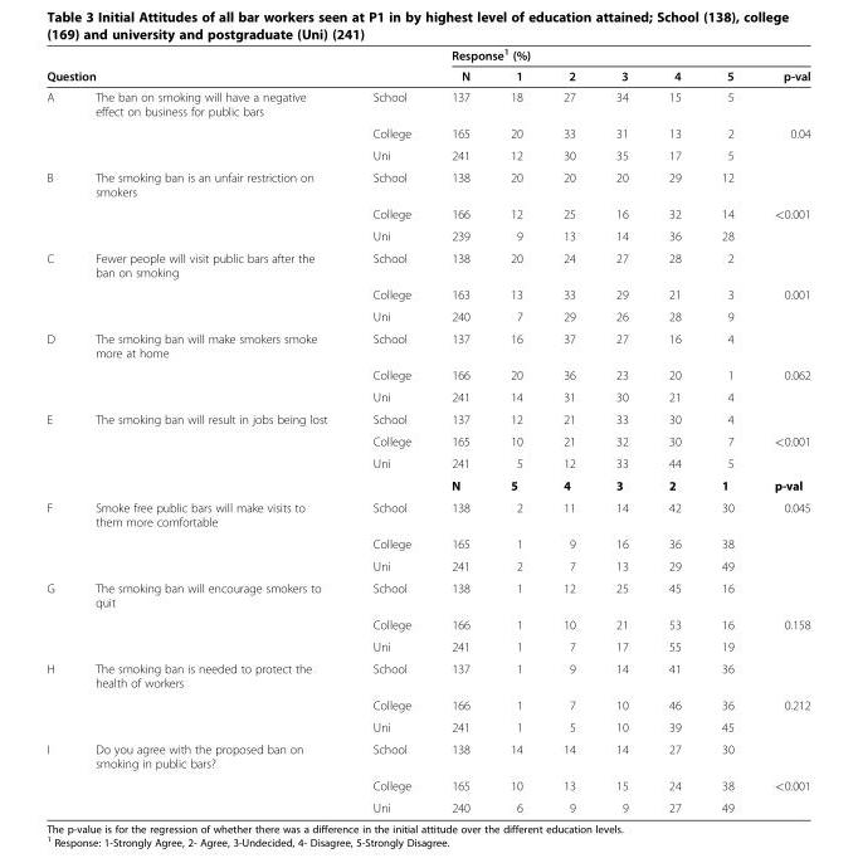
<table><thead><tr><td></td><td></td><td rowspan="2"></td><td colspan="6">Response<sup>1</sup> (%)</td><td rowspan="2">p-val</td></tr><tr><td colspan="2">Question</td><td>N</td><td>1</td><td>2</td><td>3</td><td>4</td><td>5</td></tr></thead><tbody><tr><td rowspan="3">A</td><td>The ban on smoking will have a negative effect on business for public bars</td><td>School</td><td>137</td><td>18</td><td>27</td><td>34</td><td>15</td><td>5</td><td></td></tr><tr><td></td><td>College</td><td>165</td><td>20</td><td>33</td><td>31</td><td>13</td><td>2</td><td>0.04</td></tr><tr><td></td><td>Uni</td><td>241</td><td>12</td><td>30</td><td>35</td><td>17</td><td>5</td><td></td></tr><tr><td rowspan="3">B</td><td>The smoking ban is an unfair restriction on smokers</td><td>School</td><td>138</td><td>20</td><td>20</td><td>20</td><td>29</td><td>12</td><td></td></tr><tr><td></td><td>College</td><td>166</td><td>12</td><td>25</td><td>16</td><td>32</td><td>14</td><td>&lt;0.001</td></tr><tr><td></td><td>Uni</td><td>239</td><td>9</td><td>13</td><td>14</td><td>36</td><td>28</td><td></td></tr><tr><td rowspan="3">C</td><td>Fewer people will visit public bars after the ban on smoking</td><td>School</td><td>138</td><td>20</td><td>24</td><td>27</td><td>28</td><td>2</td><td></td></tr><tr><td></td><td>College</td><td>163</td><td>13</td><td>33</td><td>29</td><td>21</td><td>3</td><td>0.001</td></tr><tr><td></td><td>Uni</td><td>240</td><td>7</td><td>29</td><td>26</td><td>28</td><td>9</td><td></td></tr><tr><td rowspan="3">D</td><td>The smoking ban will make smokers smoke more at home</td><td>School</td><td>137</td><td>16</td><td>37</td><td>27</td><td>16</td><td>4</td><td></td></tr><tr><td></td><td>College</td><td>166</td><td>20</td><td>36</td><td>23</td><td>20</td><td>1</td><td>0.062</td></tr><tr><td></td><td>Uni</td><td>241</td><td>14</td><td>31</td><td>30</td><td>21</td><td>4</td><td></td></tr><tr><td rowspan="4">E</td><td>The smoking ban will result in jobs being lost</td><td>School</td><td>137</td><td>12</td><td>21</td><td>33</td><td>30</td><td>4</td><td></td></tr><tr><td></td><td>College</td><td>165</td><td>10</td><td>21</td><td>32</td><td>30</td><td>7</td><td>&lt;0.001</td></tr><tr><td></td><td>Uni</td><td>241</td><td>5</td><td>12</td><td>33</td><td>44</td><td>5</td><td></td></tr><tr><td></td><td></td><td>N</td><td>5</td><td>4</td><td>3</td><td>2</td><td>1</td><td>p-val</td></tr><tr><td rowspan="3">F</td><td>Smoke free public bars will make visits to them more comfortable</td><td>School</td><td>138</td><td>2</td><td>11</td><td>14</td><td>42</td><td>30</td><td>0.045</td></tr><tr><td></td><td>College</td><td>165</td><td>1</td><td>9</td><td>16</td><td>36</td><td>38</td><td></td></tr><tr><td></td><td>Uni</td><td>241</td><td>2</td><td>7</td><td>13</td><td>29</td><td>49</td><td></td></tr><tr><td rowspan="3">G</td><td>The smoking ban will encourage smokers to quit</td><td>School</td><td>138</td><td>1</td><td>12</td><td>25</td><td>45</td><td>16</td><td></td></tr><tr><td></td><td>College</td><td>166</td><td>1</td><td>10</td><td>21</td><td>53</td><td>16</td><td>0.158</td></tr><tr><td></td><td>Uni</td><td>241</td><td>1</td><td>7</td><td>17</td><td>55</td><td>19</td><td></td></tr><tr><td rowspan="3">H</td><td>The smoking ban is needed to protect the health of workers</td><td>School</td><td>137</td><td>1</td><td>9</td><td>14</td><td>41</td><td>36</td><td></td></tr><tr><td></td><td>College</td><td>166</td><td>1</td><td>7</td><td>10</td><td>46</td><td>36</td><td>0.212</td></tr><tr><td></td><td>Uni</td><td>241</td><td>1</td><td>5</td><td>10</td><td>39</td><td>45</td><td></td></tr><tr><td rowspan="3">I</td><td>Do you agree with the proposed ban on smoking in public bars?</td><td>School</td><td>138</td><td>14</td><td>14</td><td>14</td><td>27</td><td>30</td><td></td></tr><tr><td></td><td>College</td><td>165</td><td>10</td><td>13</td><td>15</td><td>24</td><td>38</td><td>&lt;0.001</td></tr><tr><td></td><td>Uni</td><td>240</td><td>6</td><td>9</td><td>9</td><td>27</td><td>49</td><td></td></tr></tbody></table>